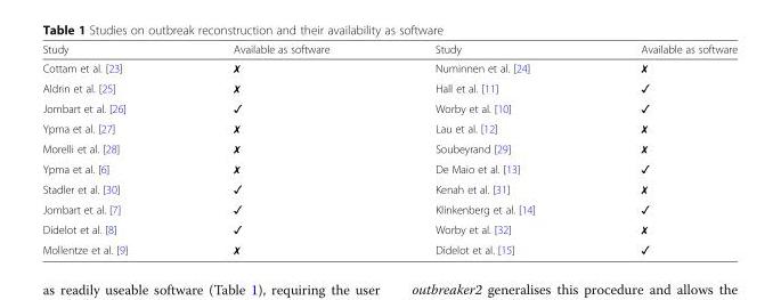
<table><thead><tr><td>Study</td><td>Available as software</td><td>Study</td><td>Available as software</td></tr></thead><tbody><tr><td>Cottam et al. [23]</td><td>✗</td><td>Numinnen et al. [24]</td><td>✗</td></tr><tr><td>Aldrin et al. [25]</td><td>✗</td><td>Hall et al. [11]</td><td>✓</td></tr><tr><td>Jombart et al. [26]</td><td>✓</td><td>Worby et al. [10]</td><td>✓</td></tr><tr><td>Ypma et al. [27]</td><td>✗</td><td>Lau et al. [12]</td><td>✗</td></tr><tr><td>Morelli et al. [28]</td><td>✗</td><td>Soubeyrand [29]</td><td>✗</td></tr><tr><td>Ypma et al. [6]</td><td>✗</td><td>De Maio et al. [13]</td><td>✓</td></tr><tr><td>Stadler et al. [30]</td><td>✓</td><td>Kenah et al. [31]</td><td>✗</td></tr><tr><td>Jombart et al. [7]</td><td>✓</td><td>Klinkenberg et al. [14]</td><td>✓</td></tr><tr><td>Didelot et al. [8]</td><td>✓</td><td>Worby et al. [32]</td><td>✗</td></tr><tr><td>Mollentze et al. [9]</td><td>✗</td><td>Didelot et al. [15]</td><td>✓</td></tr></tbody></table>